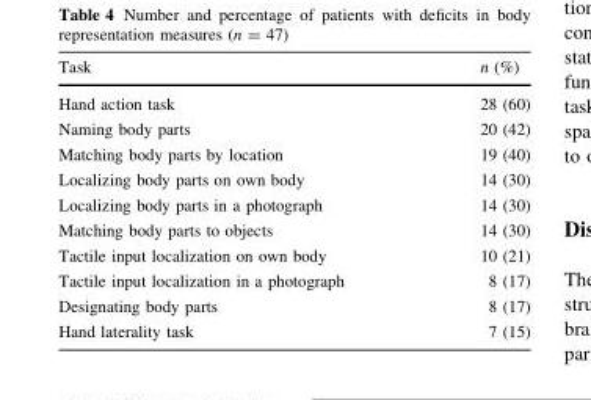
<table><thead><tr><td>Task</td><td>n (%)</td></tr></thead><tbody><tr><td>Hand action task</td><td>28 (60)</td></tr><tr><td>Naming body parts</td><td>20 (42)</td></tr><tr><td>Matching body parts by location</td><td>19 (40)</td></tr><tr><td>Localizing body parts on own body</td><td>14 (30)</td></tr><tr><td>Localizing body parts in a photograph</td><td>14 (30)</td></tr><tr><td>Matching body parts to objects</td><td>14 (30)</td></tr><tr><td>Tactile input localization on own body</td><td>10 (21)</td></tr><tr><td>Tactile input localization in a photograph</td><td>8 (17)</td></tr><tr><td>Designating body parts</td><td>8 (17)</td></tr><tr><td>Hand laterality task</td><td>7 (15)</td></tr></tbody></table>